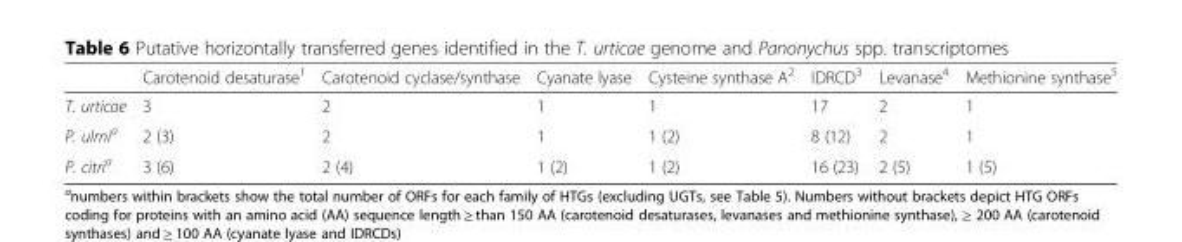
<table><thead><tr><td></td><td>Carotenoid desaturase<sup>1</sup></td><td>Carotenoid cyclase/synthase</td><td>Cyanate lyase</td><td>Cysteine synthase A<sup>2</sup></td><td>IDRCD<sup>3</sup></td><td>Levanase<sup>4</sup></td><td>Methionine synthase<sup>5</sup></td></tr></thead><tbody><tr><td>T. urticae</td><td>3</td><td>2</td><td>1</td><td>1</td><td>17</td><td>2</td><td>1</td></tr><tr><td>P. ulmi<sup>a</sup></td><td>2 (3)</td><td>2</td><td>1</td><td>1 (2)</td><td>8 (12)</td><td>2</td><td>1</td></tr><tr><td>P. citri<sup>a</sup></td><td>3 (6)</td><td>2 (4)</td><td>1 (2)</td><td>1 (2)</td><td>16 (23)</td><td>2 (5)</td><td>1 (5)</td></tr></tbody></table>